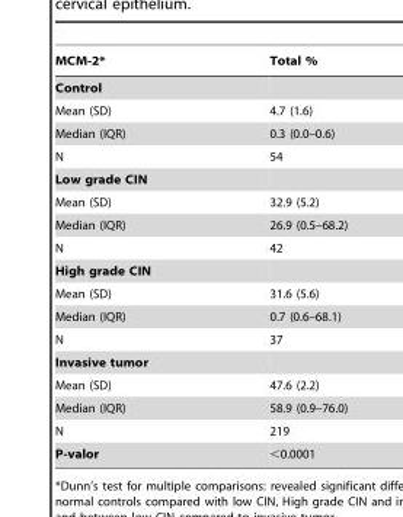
<table><thead><tr><td>MCM-2*</td><td>Total %</td></tr></thead><tbody><tr><td colspan="2">Control</td></tr><tr><td>Mean (SD)</td><td>4.7 (1.6)</td></tr><tr><td>Median (IQR)</td><td>0.3 (0.0–0.6)</td></tr><tr><td>N</td><td>54</td></tr><tr><td colspan="2">Low grade CIN</td></tr><tr><td>Mean (SD)</td><td>32.9 (5.2)</td></tr><tr><td>Median (IQR)</td><td>26.9 (0.5–68.2)</td></tr><tr><td>N</td><td>42</td></tr><tr><td colspan="2">High grade CIN</td></tr><tr><td>Mean (SD)</td><td>31.6 (5.6)</td></tr><tr><td>Median (IQR)</td><td>0.7 (0.6–68.1)</td></tr><tr><td>N</td><td>37</td></tr><tr><td colspan="2">Invasive tumor</td></tr><tr><td>Mean (SD)</td><td>47.6 (2.2)</td></tr><tr><td>Median (IQR)</td><td>58.9 (0.9–76.0)</td></tr><tr><td>N</td><td>219</td></tr><tr><td>P-valor</td><td>&lt;0.0001</td></tr></tbody></table>